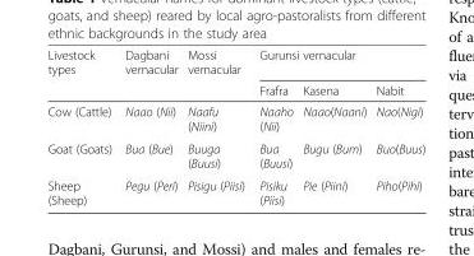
<table><thead><tr><td rowspan="2">Livestock types</td><td rowspan="2">Dagbani vernacular</td><td rowspan="2">Mossi vernacular</td><td colspan="3">Gurunsi vernacular</td></tr><tr><td>Frafra</td><td>Kasena</td><td>Nabit</td></tr></thead><tbody><tr><td>Cow (Cattle)</td><td>Naao (Nii)</td><td>Naafu (Niini)</td><td>Naaho (Nii)</td><td>Naao(Naani)</td><td>Nao(Nigi)</td></tr><tr><td>Goat (Goats)</td><td>Bua (Bue)</td><td>Buuga (Buusi)</td><td>Bua (Buusi)</td><td>Bugu (Bum)</td><td>Buo(Buus)</td></tr><tr><td>Sheep (Sheep)</td><td>Pegu (Peri)</td><td>Pisigu (Piisi)</td><td>Pisiku (Piisi)</td><td>Pie (Piini)</td><td>Piho(Pihi)</td></tr></tbody></table>